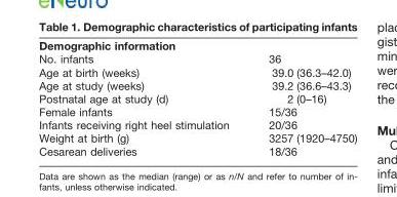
<table><thead><tr><td>Demographic information</td><td></td></tr></thead><tbody><tr><td>No. infants</td><td>36</td></tr><tr><td>Age at birth (weeks)</td><td>39.0 (36.3–42.0)</td></tr><tr><td>Age at study (weeks)</td><td>39.2 (36.6–43.3)</td></tr><tr><td>Postnatal age at study (d)</td><td>2 (0–16)</td></tr><tr><td>Female infants</td><td>15/36</td></tr><tr><td>Infants receiving right heel stimulation</td><td>20/36</td></tr><tr><td>Weight at birth (g)</td><td>3257 (1920–4750)</td></tr><tr><td>Cesarean deliveries</td><td>18/36</td></tr></tbody></table>